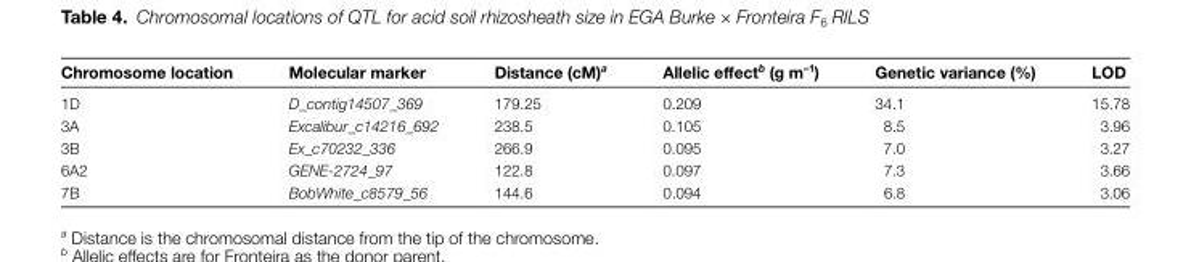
<table><thead><tr><td>Chromosome location</td><td>Molecular marker</td><td>Distance (cM)<sup>a</sup></td><td>Allelic effect<sup>b</sup> (g m<sup>–1</sup>)</td><td>Genetic variance (%)</td><td>LOD</td></tr></thead><tbody><tr><td>1D</td><td>D_contig14507_369</td><td>179.25</td><td>0.209</td><td>34.1</td><td>15.78</td></tr><tr><td>3A</td><td>Excalibur_c14216_692</td><td>238.5</td><td>0.105</td><td>8.5</td><td>3.96</td></tr><tr><td>3B</td><td>Ex_c70232_336</td><td>266.9</td><td>0.095</td><td>7.0</td><td>3.27</td></tr><tr><td>6A2</td><td>GENE-2724_97</td><td>122.8</td><td>0.097</td><td>7.3</td><td>3.66</td></tr><tr><td>7B</td><td>BobWhite_c8579_56</td><td>144.6</td><td>0.094</td><td>6.8</td><td>3.06</td></tr></tbody></table>